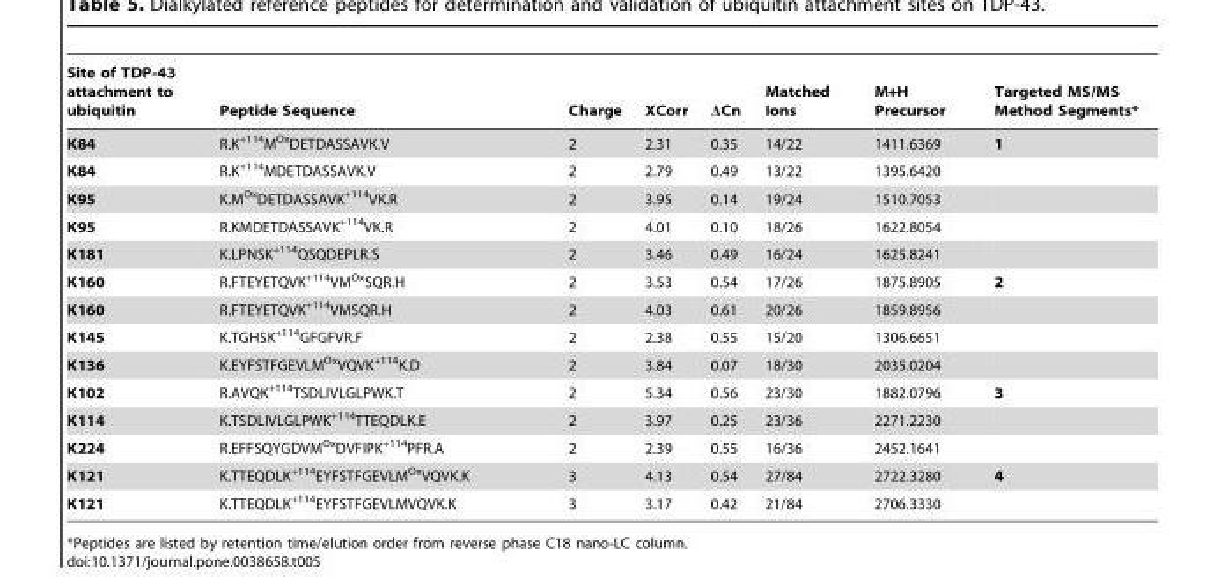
<table><thead><tr><td>Site of TDP-43 attachment to ubiquitin</td><td>Peptide Sequence</td><td>Charge</td><td>XCorr</td><td>ΔCn</td><td>Matched Ions</td><td>M+H Precursor</td><td>Targeted MS/MS Method Segments*</td></tr></thead><tbody><tr><td>K84</td><td>R.K<sup>+114</sup>M<sup>Ox</sup>DETDASSAVK.V</td><td>2</td><td>2.31</td><td>0.35</td><td>14/22</td><td>1411.6369</td><td>1</td></tr><tr><td>K84</td><td>R.K<sup>+114</sup>MDETDASSAVK.V</td><td>2</td><td>2.79</td><td>0.49</td><td>13/22</td><td>1395.6420</td><td></td></tr><tr><td>K95</td><td>K.M<sup>Ox</sup>DETDASSAVK<sup>+114</sup>VK.R</td><td>2</td><td>3.95</td><td>0.14</td><td>19/24</td><td>1510.7053</td><td></td></tr><tr><td>K95</td><td>R.KMDETDASSAVK<sup>+114</sup>VK.R</td><td>2</td><td>4.01</td><td>0.10</td><td>18/26</td><td>1622.8054</td><td></td></tr><tr><td>K181</td><td>K.LPNSK<sup>+114</sup>QSQDEPLR.S</td><td>2</td><td>3.46</td><td>0.49</td><td>16/24</td><td>1625.8241</td><td></td></tr><tr><td>K160</td><td>R.FTEYETQVK<sup>+114</sup>VM<sup>Ox</sup>SQR.H</td><td>2</td><td>3.53</td><td>0.54</td><td>17/26</td><td>1875.8905</td><td>2</td></tr><tr><td>K160</td><td>R.FTEYETQVK<sup>+114</sup>VMSQR.H</td><td>2</td><td>4.03</td><td>0.61</td><td>20/26</td><td>1859.8956</td><td></td></tr><tr><td>K145</td><td>K.TGHSK<sup>+114</sup>GFGFVR.F</td><td>2</td><td>2.38</td><td>0.55</td><td>15/20</td><td>1306.6651</td><td></td></tr><tr><td>K136</td><td>K.EYFSTFGEVLM<sup>Ox</sup>VQVK<sup>+114</sup>K.D</td><td>2</td><td>3.84</td><td>0.07</td><td>18/30</td><td>2035.0204</td><td></td></tr><tr><td>K102</td><td>R.AVQK<sup>+114</sup>TSDLIVLGLPWK.T</td><td>2</td><td>5.34</td><td>0.56</td><td>23/30</td><td>1882.0796</td><td>3</td></tr><tr><td>K114</td><td>K.TSDLIVLGLPWK<sup>+114</sup>TTEQDLK.E</td><td>2</td><td>3.97</td><td>0.25</td><td>23/36</td><td>2271.2230</td><td></td></tr><tr><td>K224</td><td>R.EFFSQYGDVM<sup>Ox</sup>DVFIPK<sup>+114</sup>PFR.A</td><td>2</td><td>2.39</td><td>0.55</td><td>16/36</td><td>2452.1641</td><td></td></tr><tr><td>K121</td><td>K.TTEQDLK<sup>+114</sup>EYFSTFGEVLM<sup>Ox</sup>VQVK.K</td><td>3</td><td>4.13</td><td>0.54</td><td>27/84</td><td>2722.3280</td><td>4</td></tr><tr><td>K121</td><td>K.TTEQDLK<sup>+114</sup>EYFSTFGEVLMVQVK.K</td><td>3</td><td>3.17</td><td>0.42</td><td>21/84</td><td>2706.3330</td><td></td></tr></tbody></table>